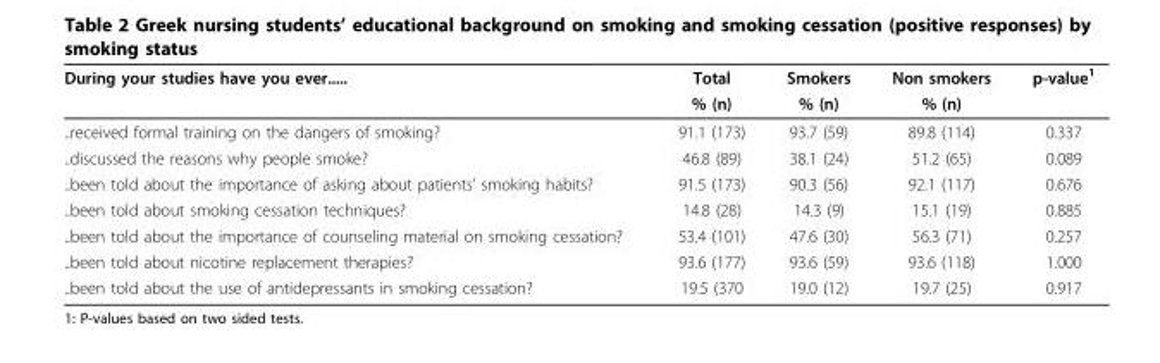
<table><thead><tr><td rowspan="2">During your studies have you ever.....</td><td rowspan="2">Total % (n)</td><td rowspan="2">Smokers % (n)</td><td rowspan="2">Non smokers % (n)</td><td rowspan="2">p-value<sup>1</sup></td></tr><tr></tr></thead><tbody><tr><td>..received formal training on the dangers of smoking?</td><td>91.1 (173)</td><td>93.7 (59)</td><td>89.8 (114)</td><td>0.337</td></tr><tr><td>..discussed the reasons why people smoke?</td><td>46.8 (89)</td><td>38.1 (24)</td><td>51.2 (65)</td><td>0.089</td></tr><tr><td>..been told about the importance of asking about patients’ smoking habits?</td><td>91.5 (173)</td><td>90.3 (56)</td><td>92.1 (117)</td><td>0.676</td></tr><tr><td>..been told about smoking cessation techniques?</td><td>14.8 (28)</td><td>14.3 (9)</td><td>15.1 (19)</td><td>0.885</td></tr><tr><td>..been told about the importance of counseling material on smoking cessation?</td><td>53.4 (101)</td><td>47.6 (30)</td><td>56.3 (71)</td><td>0.257</td></tr><tr><td>..been told about nicotine replacement therapies?</td><td>93.6 (177)</td><td>93.6 (59)</td><td>93.6 (118)</td><td>1.000</td></tr><tr><td>..been told about the use of antidepressants in smoking cessation?</td><td>19.5 (370</td><td>19.0 (12)</td><td>19.7 (25)</td><td>0.917</td></tr></tbody></table>